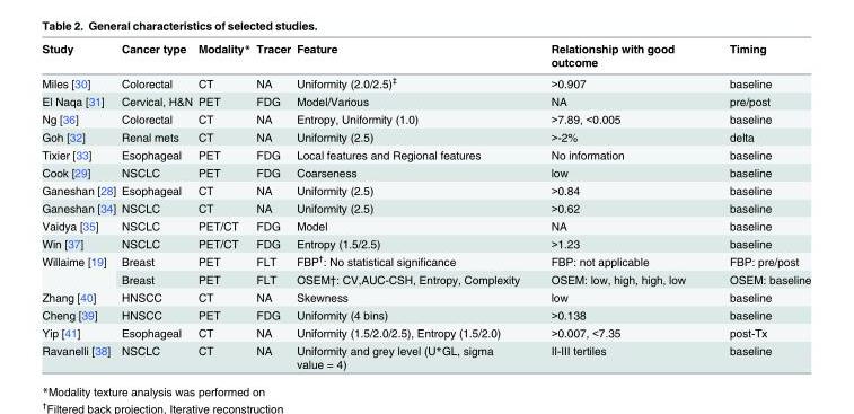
<table><thead><tr><td>Study</td><td>Cancer type</td><td>Modality*</td><td>Tracer</td><td>Feature</td><td>Relationship with good outcome</td><td>Timing</td></tr></thead><tbody><tr><td>Miles [30]</td><td>Colorectal</td><td>CT</td><td>NA</td><td>Uniformity (2.0/2.5)<sup>‡</sup></td><td>&gt;0.907</td><td>baseline</td></tr><tr><td>El Naqa [31]</td><td>Cervical, H&amp;N</td><td>PET</td><td>FDG</td><td>Model/Various</td><td>NA</td><td>pre/post</td></tr><tr><td>Ng [36]</td><td>Colorectal</td><td>CT</td><td>NA</td><td>Entropy, Uniformity (1.0)</td><td>&gt;7.89, &lt;0.005</td><td>baseline</td></tr><tr><td>Goh [32]</td><td>Renal mets</td><td>CT</td><td>NA</td><td>Uniformity (2.5)</td><td>&gt;-2%</td><td>delta</td></tr><tr><td>Tixier [33]</td><td>Esophageal</td><td>PET</td><td>FDG</td><td>Local features and Regional features</td><td>No information</td><td>baseline</td></tr><tr><td>Cook [29]</td><td>NSCLC</td><td>PET</td><td>FDG</td><td>Coarseness</td><td>low</td><td>baseline</td></tr><tr><td>Ganeshan [28]</td><td>Esophageal</td><td>CT</td><td>NA</td><td>Uniformity (2.5)</td><td>&gt;0.84</td><td>baseline</td></tr><tr><td>Ganeshan [34]</td><td>NSCLC</td><td>CT</td><td>NA</td><td>Uniformity (2.5)</td><td>&gt;0.62</td><td>baseline</td></tr><tr><td>Vaidya [35]</td><td>NSCLC</td><td>PET/CT</td><td>FDG</td><td>Model</td><td>NA</td><td>baseline</td></tr><tr><td>Win [37]</td><td>NSCLC</td><td>PET/CT</td><td>FDG</td><td>Entropy (1.5/2.5)</td><td>&gt;1.23</td><td>baseline</td></tr><tr><td rowspan="2">Willaime [19]</td><td>Breast</td><td>PET</td><td>FLT</td><td>FBP<sup>†</sup>: No statistical significance</td><td>FBP: not applicable</td><td>FBP: pre/post</td></tr><tr><td>Breast</td><td>PET</td><td>FLT</td><td>OSEM†: CV,AUC-CSH, Entropy, Complexity</td><td>OSEM: low, high, high, low</td><td>OSEM: baseline</td></tr><tr><td>Zhang [40]</td><td>HNSCC</td><td>CT</td><td>NA</td><td>Skewness</td><td>low</td><td>baseline</td></tr><tr><td>Cheng [39]</td><td>HNSCC</td><td>PET</td><td>FDG</td><td>Uniformity (4 bins)</td><td>&gt;0.138</td><td>baseline</td></tr><tr><td>Yip [41]</td><td>Esophageal</td><td>CT</td><td>NA</td><td>Uniformity (1.5/2.0/2.5), Entropy (1.5/2.0)</td><td>&gt;0.007, &lt;7.35</td><td>post-Tx</td></tr><tr><td>Ravanelli [38]</td><td>NSCLC</td><td>CT</td><td>NA</td><td>Uniformity and grey level (U*GL, sigma value = 4)</td><td>II-III tertiles</td><td>baseline</td></tr></tbody></table>